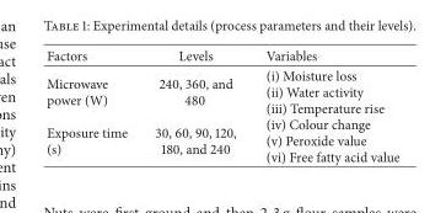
<table><thead><tr><td>Factors</td><td>Levels</td><td>Variables</td></tr></thead><tbody><tr><td>Microwave power (W) Exposure time (s)</td><td>240, 360, and 480 30, 60, 90, 120, 180, and 240</td><td>(i) Moisture loss (ii) Water activity (iii) Temperature rise (iv) Colour change (v) Peroxide value (vi) Free fatty acid value</td></tr></tbody></table>